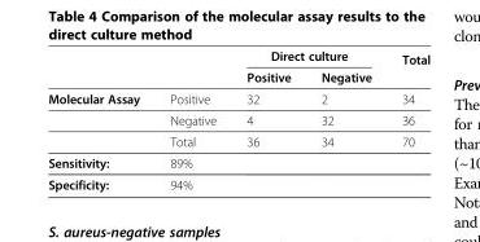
<table><thead><tr><td rowspan="2"></td><td rowspan="2"></td><td colspan="2">Direct culture</td><td rowspan="2">Total</td></tr><tr><td>Positive</td><td>Negative</td></tr></thead><tbody><tr><td rowspan="3">Molecular Assay</td><td>Positive</td><td>32</td><td>2</td><td>34</td></tr><tr><td>Negative</td><td>4</td><td>32</td><td>36</td></tr><tr><td>Total</td><td>36</td><td>34</td><td>70</td></tr><tr><td>Sensitivity:</td><td>89%</td><td></td><td></td><td></td></tr><tr><td>Specificity:</td><td>94%</td><td></td><td></td><td></td></tr></tbody></table>